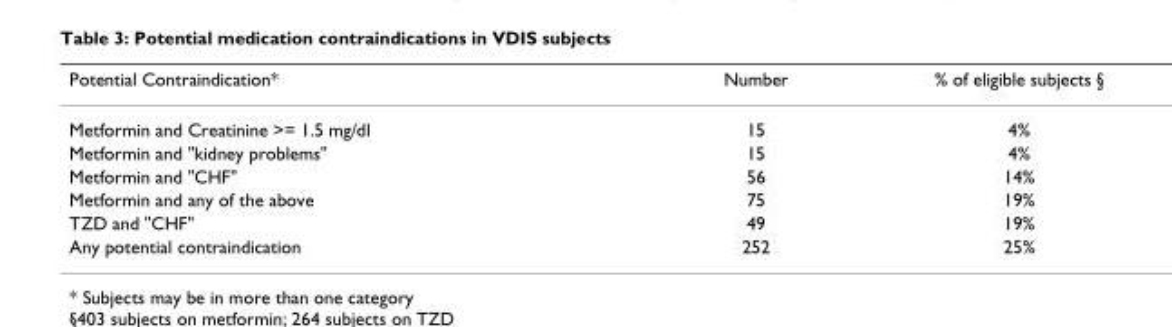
<table><thead><tr><td>Potential Contraindication*</td><td>Number</td><td>% of eligible subjects §</td></tr></thead><tbody><tr><td>Metformin and Creatinine &gt;= 1.5 mg/dl</td><td>15</td><td>4%</td></tr><tr><td>Metformin and &quot;kidney problems&quot;</td><td>15</td><td>4%</td></tr><tr><td>Metformin and &quot;CHF&quot;</td><td>56</td><td>14%</td></tr><tr><td>Metformin and any of the above</td><td>75</td><td>19%</td></tr><tr><td>TZD and &quot;CHF&quot;</td><td>49</td><td>19%</td></tr><tr><td>Any potential contraindication</td><td>252</td><td>25%</td></tr></tbody></table>